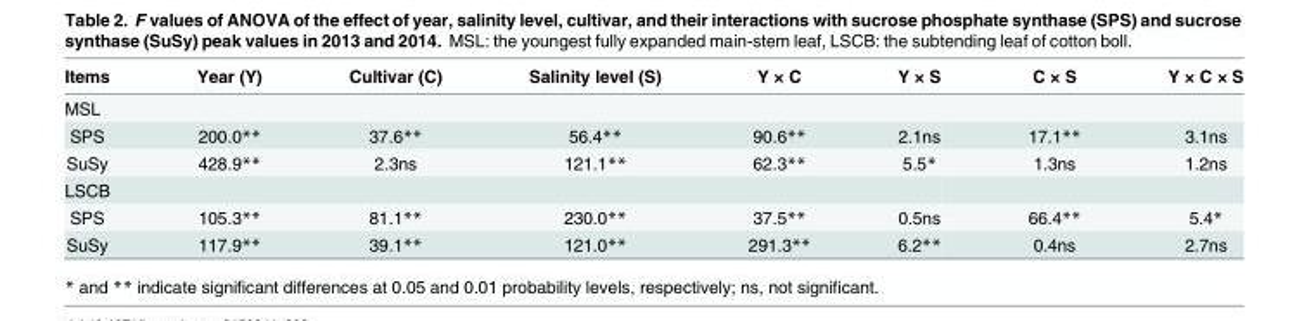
<table><thead><tr><td>Items</td><td>Year (Y)</td><td>Cultivar (C)</td><td>Salinity level (S)</td><td>Y × C</td><td>Y × S</td><td>C × S</td><td>Y × C × S</td></tr></thead><tbody><tr><td colspan="8">MSL</td></tr><tr><td>SPS</td><td>200.0**</td><td>37.6**</td><td>56.4**</td><td>90.6**</td><td>2.1ns</td><td>17.1**</td><td>3.1ns</td></tr><tr><td>SuSy</td><td>428.9**</td><td>2.3ns</td><td>121.1**</td><td>62.3**</td><td>5.5*</td><td>1.3ns</td><td>1.2ns</td></tr><tr><td colspan="8">LSCB</td></tr><tr><td>SPS</td><td>105.3**</td><td>81.1**</td><td>230.0**</td><td>37.5**</td><td>0.5ns</td><td>66.4**</td><td>5.4*</td></tr><tr><td>SuSy</td><td>117.9**</td><td>39.1**</td><td>121.0**</td><td>291.3**</td><td>6.2**</td><td>0.4ns</td><td>2.7ns</td></tr></tbody></table>